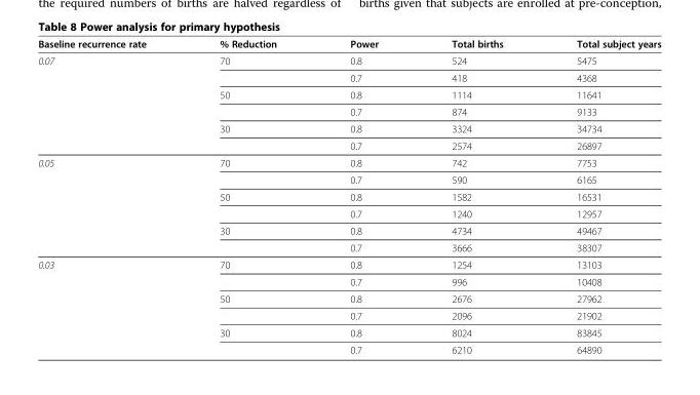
<table><thead><tr><td>Baseline recurrence rate</td><td>% Reduction</td><td>Power</td><td>Total births</td><td>Total subject years</td></tr></thead><tbody><tr><td rowspan="6">0.07</td><td>70</td><td>0.8</td><td>524</td><td>5475</td></tr><tr><td></td><td>0.7</td><td>418</td><td>4368</td></tr><tr><td>50</td><td>0.8</td><td>1114</td><td>11641</td></tr><tr><td></td><td>0.7</td><td>874</td><td>9133</td></tr><tr><td>30</td><td>0.8</td><td>3324</td><td>34734</td></tr><tr><td></td><td>0.7</td><td>2574</td><td>26897</td></tr><tr><td rowspan="6">0.05</td><td>70</td><td>0.8</td><td>742</td><td>7753</td></tr><tr><td></td><td>0.7</td><td>590</td><td>6165</td></tr><tr><td>50</td><td>0.8</td><td>1582</td><td>16531</td></tr><tr><td></td><td>0.7</td><td>1240</td><td>12957</td></tr><tr><td>30</td><td>0.8</td><td>4734</td><td>49467</td></tr><tr><td></td><td>0.7</td><td>3666</td><td>38307</td></tr><tr><td rowspan="6">0.03</td><td>70</td><td>0.8</td><td>1254</td><td>13103</td></tr><tr><td></td><td>0.7</td><td>996</td><td>10408</td></tr><tr><td>50</td><td>0.8</td><td>2676</td><td>27962</td></tr><tr><td></td><td>0.7</td><td>2096</td><td>21902</td></tr><tr><td>30</td><td>0.8</td><td>8024</td><td>83845</td></tr><tr><td></td><td>0.7</td><td>6210</td><td>64890</td></tr></tbody></table>